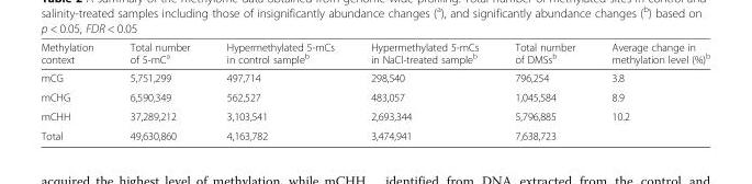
<table><thead><tr><td>Methylation context</td><td>Total number of 5-mC<sup>a</sup></td><td>Hypermethylated 5-mCs in control sample<sup>b</sup></td><td>Hypermethylated 5-mCs in NaCl-treated sample<sup>b</sup></td><td>Total number of DMSs<sup>b</sup></td><td>Average change in methylation level (%)<sup>b</sup></td></tr></thead><tbody><tr><td>mCG</td><td>5,751,299</td><td>497,714</td><td>298,540</td><td>796,254</td><td>3.8</td></tr><tr><td>mCHG</td><td>6,590,349</td><td>562,527</td><td>483,057</td><td>1,045,584</td><td>8.9</td></tr><tr><td>mCHH</td><td>37,289,212</td><td>3,103,541</td><td>2,693,344</td><td>5,796,885</td><td>10.2</td></tr><tr><td>Total</td><td>49,630,860</td><td>4,163,782</td><td>3,474,941</td><td>7,638,723</td><td></td></tr></tbody></table>